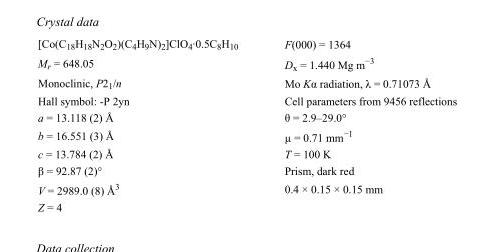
<table><tbody><tr><td>[Co(C<sub>18</sub>H<sub>18</sub>N<sub>2</sub>O<sub>2</sub>)(C<sub>4</sub>H<sub>9</sub>N)<sub>2</sub>]ClO<sub>4</sub>·0.5C<sub>8</sub>H<sub>10</sub></td><td>F(000) = 1364</td></tr><tr><td>M<sub>r</sub> = 648.05</td><td>D<sub>x</sub> = 1.440 Mg m<sup>−3</sup></td></tr><tr><td>Monoclinic, P2<sub>1</sub>/n</td><td>Mo Kα radiation, λ = 0.71073 Å</td></tr><tr><td>Hall symbol: -P 2yn</td><td>Cell parameters from 9456 reflections</td></tr><tr><td>a = 13.118 (2) Å</td><td>θ = 2.9–29.0°</td></tr><tr><td>b = 16.551 (3) Å</td><td>µ = 0.71 mm<sup>−1</sup></td></tr><tr><td>c = 13.784 (2) Å</td><td>T = 100 K</td></tr><tr><td>β = 92.87 (2)°</td><td>Prism, dark red</td></tr><tr><td>V = 2989.0 (8) Å<sup>3</sup></td><td>0.4 × 0.15 × 0.15 mm</td></tr><tr><td>Z = 4</td><td></td></tr></tbody></table>